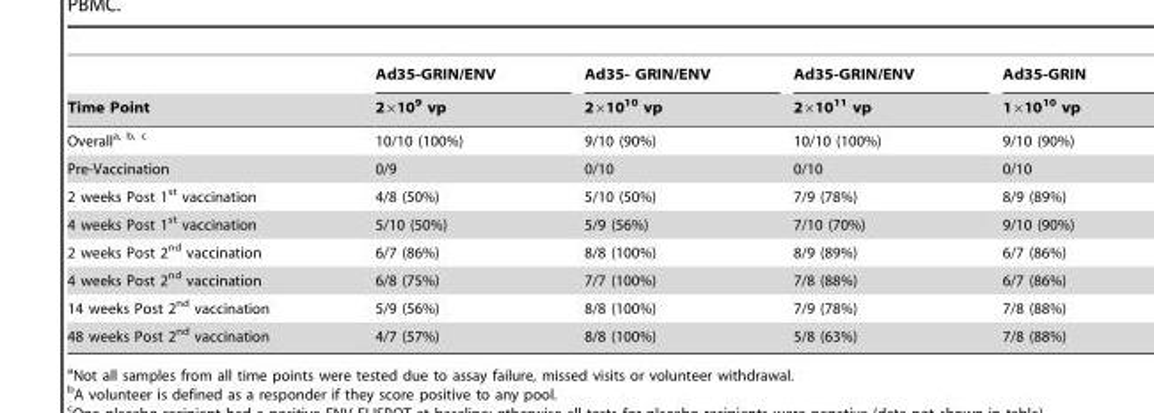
<table><thead><tr><td rowspan="2">Time Point</td><td rowspan="2">Ad35-GRIN/ENV 2×10<sup>9</sup> vp</td><td rowspan="2">Ad35- GRIN/ENV 2×10<sup>10</sup> vp</td><td rowspan="2">Ad35-GRIN/ENV 2×10<sup>11</sup> vp</td><td rowspan="2">Ad35-GRIN 1×10<sup>10</sup> vp</td></tr><tr></tr></thead><tbody><tr><td>Overalla, b, c</td><td>10/10 (100%)</td><td>9/10 (90%)</td><td>10/10 (100%)</td><td>9/10 (90%)</td></tr><tr><td>Pre-Vaccination</td><td>0/9</td><td>0/10</td><td>0/10</td><td>0/10</td></tr><tr><td>2 weeks Post 1<sup>st</sup> vaccination</td><td>4/8 (50%)</td><td>5/10 (50%)</td><td>7/9 (78%)</td><td>8/9 (89%)</td></tr><tr><td>4 weeks Post 1<sup>st</sup> vaccination</td><td>5/10 (50%)</td><td>5/9 (56%)</td><td>7/10 (70%)</td><td>9/10 (90%)</td></tr><tr><td>2 weeks Post 2<sup>nd</sup> vaccination</td><td>6/7 (86%)</td><td>8/8 (100%)</td><td>8/9 (89%)</td><td>6/7 (86%)</td></tr><tr><td>4 weeks Post 2<sup>nd</sup> vaccination</td><td>6/8 (75%)</td><td>7/7 (100%)</td><td>7/8 (88%)</td><td>6/7 (86%)</td></tr><tr><td>14 weeks Post 2<sup>nd</sup> vaccination</td><td>5/9 (56%)</td><td>8/8 (100%)</td><td>7/9 (78%)</td><td>7/8 (88%)</td></tr><tr><td>48 weeks Post 2<sup>nd</sup> vaccination</td><td>4/7 (57%)</td><td>8/8 (100%)</td><td>5/8 (63%)</td><td>7/8 (88%)</td></tr></tbody></table>